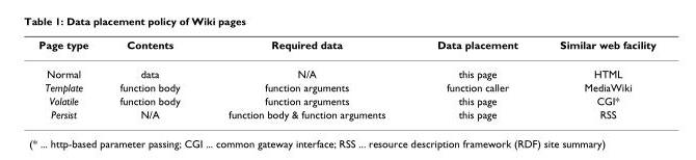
<table><thead><tr><td>Page type</td><td>Contents</td><td>Required data</td><td>Data placement</td><td>Similar web facility</td></tr></thead><tbody><tr><td>Normal</td><td>data</td><td>N/A</td><td>this page</td><td>HTML</td></tr><tr><td>Template</td><td>function body</td><td>function arguments</td><td>function caller</td><td>MediaWiki</td></tr><tr><td>Volatile</td><td>function body</td><td>function arguments</td><td>this page</td><td>CGI*</td></tr><tr><td>Persist</td><td>N/A</td><td>function body &amp; function arguments</td><td>this page</td><td>RSS</td></tr></tbody></table>